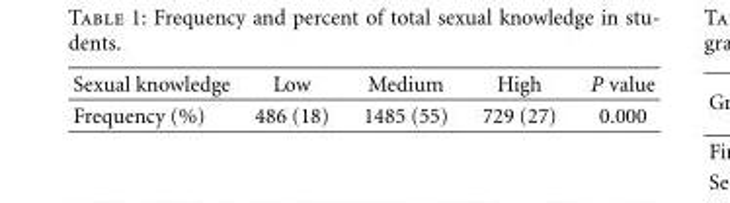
<table><thead><tr><td>Sexual knowledge</td><td>Low</td><td>Medium</td><td>High</td><td>P value</td></tr></thead><tbody><tr><td>Frequency (%)</td><td>486 (18)</td><td>1485 (55)</td><td>729 (27)</td><td>0.000</td></tr></tbody></table>